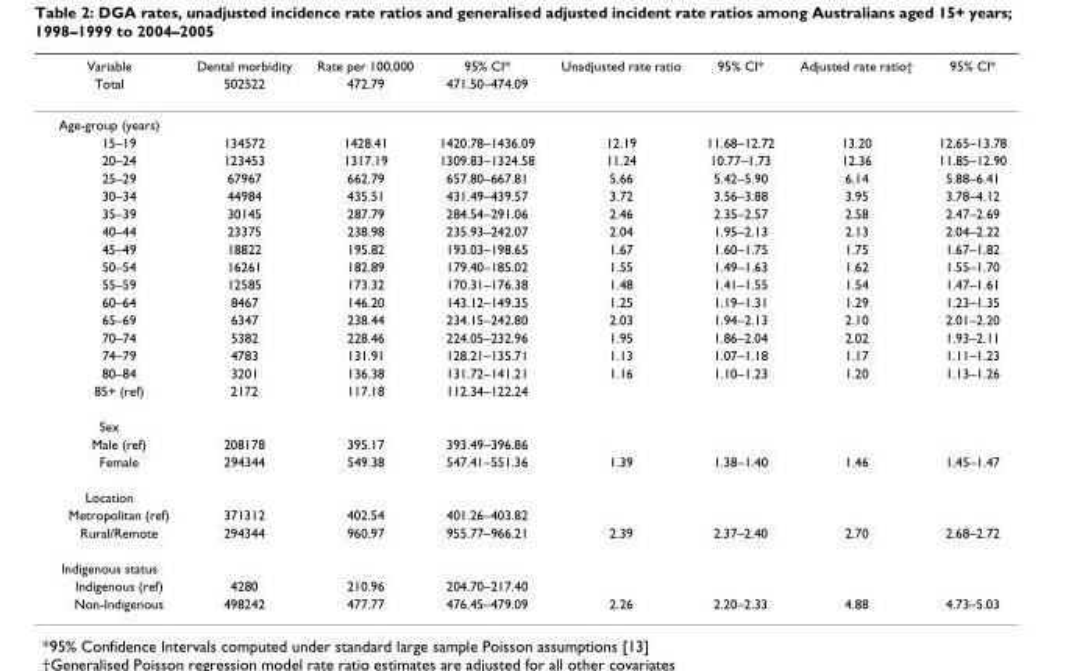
<table><thead><tr><td rowspan="2">Variable Total</td><td rowspan="2">Dental morbidity 502522</td><td rowspan="2">Rate per 100,000 472.79</td><td rowspan="2">95% CI* 471.50–474.09</td><td rowspan="2">Unadjusted rate ratio</td><td rowspan="2">95% CI*</td><td rowspan="2">Adjusted rate ratio†</td><td rowspan="2">95% CI*</td></tr><tr></tr></thead><tbody><tr><td colspan="8">Age-group (years)</td></tr><tr><td>15–19</td><td>134572</td><td>1428.41</td><td>1420.78–1436.09</td><td>12.19</td><td>11.68–12.72</td><td>13.20</td><td>12.65–13.78</td></tr><tr><td>20–24</td><td>123453</td><td>1317.19</td><td>1309.83–1324.58</td><td>11.24</td><td>10.77–1.73</td><td>12.36</td><td>11.85–12.90</td></tr><tr><td>25–29</td><td>67967</td><td>662.79</td><td>657.80–667.81</td><td>5.66</td><td>5.42–5.90</td><td>6.14</td><td>5.88–6.41</td></tr><tr><td>30–34</td><td>44984</td><td>435.51</td><td>431.49–439.57</td><td>3.72</td><td>3.56–3.88</td><td>3.95</td><td>3.78–4.12</td></tr><tr><td>35–39</td><td>30145</td><td>287.79</td><td>284.54–291.06</td><td>2.46</td><td>2.35–2.57</td><td>2.58</td><td>2.47–2.69</td></tr><tr><td>40–44</td><td>23375</td><td>238.98</td><td>235.93–242.07</td><td>2.04</td><td>1.95–2.13</td><td>2.13</td><td>2.04–2.22</td></tr><tr><td>45–49</td><td>18822</td><td>195.82</td><td>193.03–198.65</td><td>1.67</td><td>1.60–1.75</td><td>1.75</td><td>1.67–1.82</td></tr><tr><td>50–54</td><td>16261</td><td>182.89</td><td>179.40–185.02</td><td>1.55</td><td>1.49–1.63</td><td>1.62</td><td>1.55–1.70</td></tr><tr><td>55–59</td><td>12585</td><td>173.32</td><td>170.31–176.38</td><td>1.48</td><td>1.41–1.55</td><td>1.54</td><td>1.47–1.61</td></tr><tr><td>60–64</td><td>8467</td><td>146.20</td><td>143.12–149.35</td><td>1.25</td><td>1.19–1.31</td><td>1.29</td><td>1.23–1.35</td></tr><tr><td>65–69</td><td>6347</td><td>238.44</td><td>234.15–242.80</td><td>2.03</td><td>1.94–2.13</td><td>2.10</td><td>2.01–2.20</td></tr><tr><td>70–74</td><td>5382</td><td>228.46</td><td>224.05–232.96</td><td>1.95</td><td>1.86–2.04</td><td>2.02</td><td>1.93–2.11</td></tr><tr><td>74–79</td><td>4783</td><td>131.91</td><td>128.21–135.71</td><td>1.13</td><td>1.07–1.18</td><td>1.17</td><td>1.11–1.23</td></tr><tr><td>80–84</td><td>3201</td><td>136.38</td><td>131.72–141.21</td><td>1.16</td><td>1.10–1.23</td><td>1.20</td><td>1.13–1.26</td></tr><tr><td>85+ (ref)</td><td>2172</td><td>117.18</td><td>112.34–122.24</td><td></td><td></td><td></td><td></td></tr><tr><td colspan="8">Sex</td></tr><tr><td>Male (ref)</td><td>208178</td><td>395.17</td><td>393.49–396.86</td><td></td><td></td><td></td><td></td></tr><tr><td>Female</td><td>294344</td><td>549.38</td><td>547.41–551.36</td><td>1.39</td><td>1.38–1.40</td><td>1.46</td><td>1.45–1.47</td></tr><tr><td colspan="8">Location</td></tr><tr><td>Metropolitan (ref)</td><td>371312</td><td>402.54</td><td>401.26–403.82</td><td></td><td></td><td></td><td></td></tr><tr><td>Rural/Remote</td><td>294344</td><td>960.97</td><td>955.77–966.21</td><td>2.39</td><td>2.37–2.40</td><td>2.70</td><td>2.68–2.72</td></tr><tr><td colspan="8">Indigenous status</td></tr><tr><td>Indigenous (ref)</td><td>4280</td><td>210.96</td><td>204.70–217.40</td><td></td><td></td><td></td><td></td></tr><tr><td>Non-Indigenous</td><td>498242</td><td>477.77</td><td>476.45–479.09</td><td>2.26</td><td>2.20–2.33</td><td>4.88</td><td>4.73–5.03</td></tr></tbody></table>